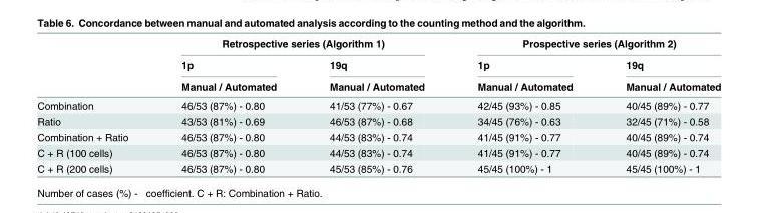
<table><thead><tr><td rowspan="3"></td><td colspan="2">Retrospective series (Algorithm 1)</td><td colspan="2">Prospective series (Algorithm 2)</td></tr><tr><td rowspan="2">1p Manual / Automated</td><td rowspan="2">19q Manual / Automated</td><td rowspan="2">1p Manual / Automated</td><td rowspan="2">19q Manual / Automated</td></tr><tr></tr></thead><tbody><tr><td>Combination</td><td>46/53 (87%) - 0.80</td><td>41/53 (77%) - 0.67</td><td>42/45 (93%) - 0.85</td><td>40/45 (89%) - 0.77</td></tr><tr><td>Ratio</td><td>43/53 (81%) - 0.69</td><td>46/53 (87%) - 0.68</td><td>34/45 (76%) - 0.63</td><td>32/45 (71%) - 0.58</td></tr><tr><td>Combination + Ratio</td><td>46/53 (87%) - 0.80</td><td>44/53 (83%) - 0.74</td><td>41/45 (91%) - 0.77</td><td>40/45 (89%) - 0.74</td></tr><tr><td>C + R (100 cells)</td><td>46/53 (87%) - 0.80</td><td>44/53 (83%) - 0.74</td><td>41/45 (91%) - 0.77</td><td>40/45 (89%) - 0.74</td></tr><tr><td>C + R (200 cells)</td><td>46/53 (87%) - 0.80</td><td>45/53 (85%) - 0.76</td><td>45/45 (100%) - 1</td><td>45/45 (100%) - 1</td></tr></tbody></table>